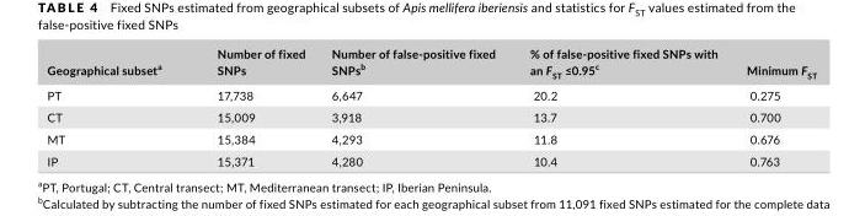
<table><thead><tr><td>Geographical subset<sup>a</sup></td><td>Number of fixed SNPs</td><td>Number of false- positive fixed SNPs<sup>b</sup></td><td>% of false- positive fixed SNPs with an F<sub>ST</sub> ≤0.95<sup>c</sup></td><td>Minimum F<sub>ST</sub></td></tr></thead><tbody><tr><td>PT</td><td>17,738</td><td>6,647</td><td>20.2</td><td>0.275</td></tr><tr><td>CT</td><td>15,009</td><td>3,918</td><td>13.7</td><td>0.700</td></tr><tr><td>MT</td><td>15,384</td><td>4,293</td><td>11.8</td><td>0.676</td></tr><tr><td>IP</td><td>15,371</td><td>4,280</td><td>10.4</td><td>0.763</td></tr></tbody></table>